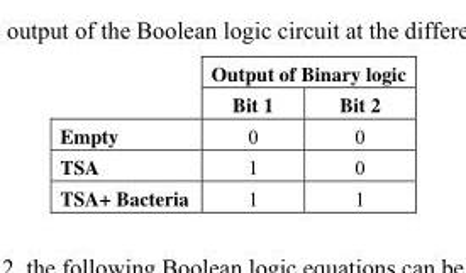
<table><thead><tr><td rowspan="2"></td><td colspan="2">Output of Binary logic</td></tr><tr><td>Bit 1</td><td>Bit 2</td></tr></thead><tbody><tr><td>Empty</td><td>0</td><td>0</td></tr><tr><td>TSA</td><td>1</td><td>0</td></tr><tr><td>TSA+ Bacteria</td><td>1</td><td>1</td></tr></tbody></table>